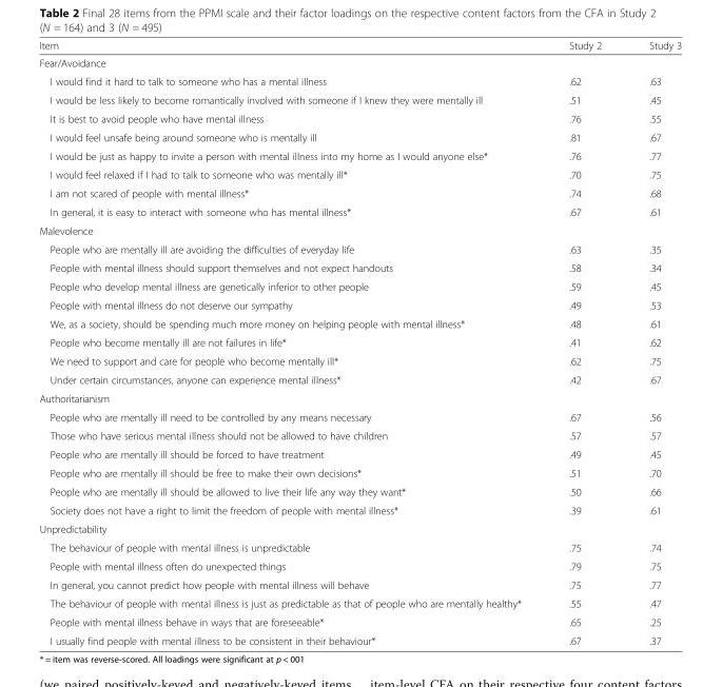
<table><thead><tr><td>Item</td><td>Study 2</td><td>Study 3</td></tr></thead><tbody><tr><td colspan="3">Fear/Avoidance</td></tr><tr><td>I would find it hard to talk to someone who has a mental illness</td><td>.62</td><td>.63</td></tr><tr><td>I would be less likely to become romantically involved with someone if I knew they were mentally ill</td><td>.51</td><td>.45</td></tr><tr><td>It is best to avoid people who have mental illness</td><td>.76</td><td>.55</td></tr><tr><td>I would feel unsafe being around someone who is mentally ill</td><td>.81</td><td>.67</td></tr><tr><td>I would be just as happy to invite a person with mental illness into my home as I would anyone else*</td><td>.76</td><td>.77</td></tr><tr><td>I would feel relaxed if I had to talk to someone who was mentally ill*</td><td>.70</td><td>.75</td></tr><tr><td>I am not scared of people with mental illness*</td><td>.74</td><td>.68</td></tr><tr><td>In general, it is easy to interact with someone who has mental illness*</td><td>.67</td><td>.61</td></tr><tr><td colspan="3">Malevolence</td></tr><tr><td>People who are mentally ill are avoiding the difficulties of everyday life</td><td>.63</td><td>.35</td></tr><tr><td>People with mental illness should support themselves and not expect handouts</td><td>.58</td><td>.34</td></tr><tr><td>People who develop mental illness are genetically inferior to other people</td><td>.59</td><td>.45</td></tr><tr><td>People with mental illness do not deserve our sympathy</td><td>.49</td><td>.53</td></tr><tr><td>We, as a society, should be spending much more money on helping people with mental illness*</td><td>.48</td><td>.61</td></tr><tr><td>People who become mentally ill are not failures in life*</td><td>.41</td><td>.62</td></tr><tr><td>We need to support and care for people who become mentally ill*</td><td>.62</td><td>.75</td></tr><tr><td>Under certain circumstances, anyone can experience mental illness*</td><td>.42</td><td>.67</td></tr><tr><td colspan="3">Authoritarianism</td></tr><tr><td>People who are mentally ill need to be controlled by any means necessary</td><td>.67</td><td>.56</td></tr><tr><td>Those who have serious mental illness should not be allowed to have children</td><td>.57</td><td>.57</td></tr><tr><td>People who are mentally ill should be forced to have treatment</td><td>.49</td><td>.45</td></tr><tr><td>People who are mentally ill should be free to make their own decisions*</td><td>.51</td><td>.70</td></tr><tr><td>People who are mentally ill should be allowed to live their life any way they want*</td><td>.50</td><td>.66</td></tr><tr><td>Society does not have a right to limit the freedom of people with mental illness*</td><td>.39</td><td>.61</td></tr><tr><td colspan="3">Unpredictability</td></tr><tr><td>The behaviour of people with mental illness is unpredictable</td><td>.75</td><td>.74</td></tr><tr><td>People with mental illness often do unexpected things</td><td>.79</td><td>.75</td></tr><tr><td>In general, you cannot predict how people with mental illness will behave</td><td>.75</td><td>.77</td></tr><tr><td>The behaviour of people with mental illness is just as predictable as that of people who are mentally healthy*</td><td>.55</td><td>.47</td></tr><tr><td>People with mental illness behave in ways that are foreseeable*</td><td>.65</td><td>.25</td></tr><tr><td>I usually find people with mental illness to be consistent in their behaviour*</td><td>.67</td><td>.37</td></tr></tbody></table>